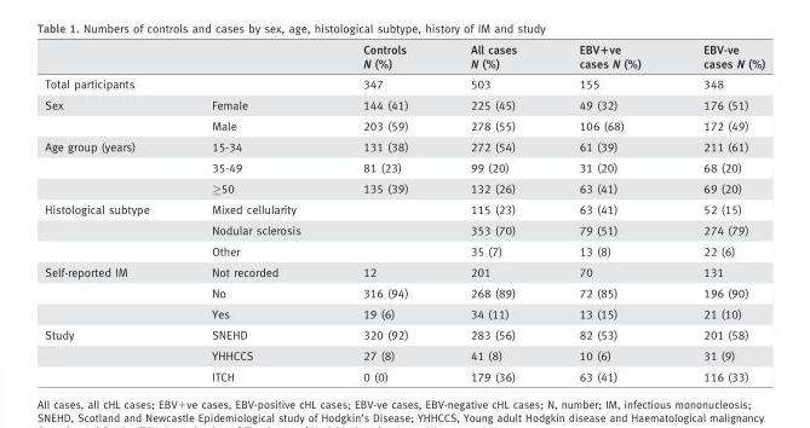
<table><thead><tr><td></td><td></td><td>Controls N (%)</td><td>All cases N (%)</td><td>EBV+ve cases N (%)</td><td>EBV-ve cases N (%)</td></tr></thead><tbody><tr><td colspan="2">Total participants</td><td>347</td><td>503</td><td>155</td><td>348</td></tr><tr><td rowspan="2">Sex</td><td>Female</td><td>144 (41)</td><td>225 (45)</td><td>49 (32)</td><td>176 (51)</td></tr><tr><td>Male</td><td>203 (59)</td><td>278 (55)</td><td>106 (68)</td><td>172 (49)</td></tr><tr><td rowspan="3">Age group (years)</td><td>15-34</td><td>131 (38)</td><td>272 (54)</td><td>61 (39)</td><td>211 (61)</td></tr><tr><td>35-49</td><td>81 (23)</td><td>99 (20)</td><td>31 (20)</td><td>68 (20)</td></tr><tr><td>≥50</td><td>135 (39)</td><td>132 (26)</td><td>63 (41)</td><td>69 (20)</td></tr><tr><td rowspan="3">Histological subtype</td><td>Mixed cellularity</td><td></td><td>115 (23)</td><td>63 (41)</td><td>52 (15)</td></tr><tr><td>Nodular sclerosis</td><td></td><td>353 (70)</td><td>79 (51)</td><td>274 (79)</td></tr><tr><td>Other</td><td></td><td>35 (7)</td><td>13 (8)</td><td>22 (6)</td></tr><tr><td rowspan="3">Self-reported IM</td><td>Not recorded</td><td>12</td><td>201</td><td>70</td><td>131</td></tr><tr><td>No</td><td>316 (94)</td><td>268 (89)</td><td>72 (85)</td><td>196 (90)</td></tr><tr><td>Yes</td><td>19 (6)</td><td>34 (11)</td><td>13 (15)</td><td>21 (10)</td></tr><tr><td rowspan="3">Study</td><td>SNEHD</td><td>320 (92)</td><td>283 (56)</td><td>82 (53)</td><td>201 (58)</td></tr><tr><td>YHHCCS</td><td>27 (8)</td><td>41 (8)</td><td>10 (6)</td><td>31 (9)</td></tr><tr><td>ITCH</td><td>0 (0)</td><td>179 (36)</td><td>63 (41)</td><td>116 (33)</td></tr></tbody></table>